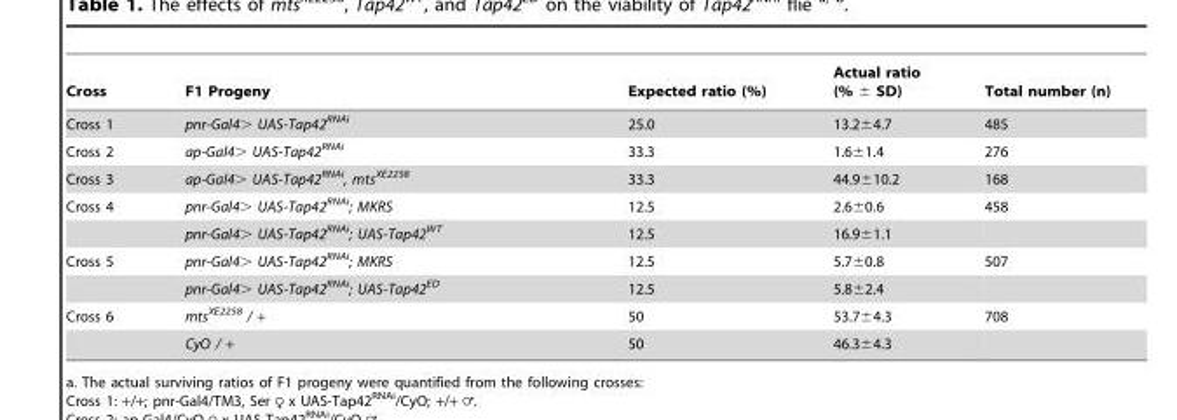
<table><thead><tr><td>Cross</td><td>F1 Progeny</td><td>Expected ratio (%)</td><td>Actual ratio (% ± SD)</td><td>Total number (n)</td></tr></thead><tbody><tr><td>Cross 1</td><td>pnr-Gal4&gt; UAS-Tap42<sup>RNAi</sup></td><td>25.0</td><td>13.2±4.7</td><td>485</td></tr><tr><td>Cross 2</td><td>ap-Gal4&gt; UAS-Tap42<sup>RNAi</sup></td><td>33.3</td><td>1.6±1.4</td><td>276</td></tr><tr><td>Cross 3</td><td>ap-Gal4&gt; UAS-Tap42<sup>RNAi</sup>, mts<sup>XE2258</sup></td><td>33.3</td><td>44.9±10.2</td><td>168</td></tr><tr><td rowspan="2">Cross 4</td><td>pnr-Gal4&gt; UAS-Tap42<sup>RNAi</sup>; MKRS</td><td>12.5</td><td>2.6±0.6</td><td>458</td></tr><tr><td>pnr-Gal4&gt; UAS-Tap42<sup>RNAi</sup>; UAS-Tap42<sup>WT</sup></td><td>12.5</td><td>16.9±1.1</td><td></td></tr><tr><td rowspan="2">Cross 5</td><td>pnr-Gal4&gt; UAS-Tap42<sup>RNAi</sup>; MKRS</td><td>12.5</td><td>5.7±0.8</td><td>507</td></tr><tr><td>pnr-Gal4&gt; UAS-Tap42<sup>RNAi</sup>; UAS-Tap42<sup>ED</sup></td><td>12.5</td><td>5.8±2.4</td><td></td></tr><tr><td rowspan="2">Cross 6</td><td>mts<sup>XE2258</sup> / +</td><td>50</td><td>53.7±4.3</td><td>708</td></tr><tr><td>CyO / +</td><td>50</td><td>46.3±4.3</td><td></td></tr></tbody></table>